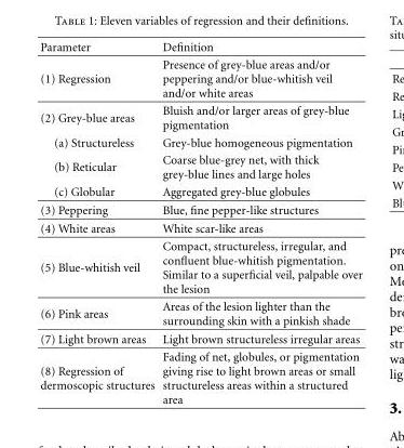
<table><thead><tr><td>Parameter</td><td>Definition</td></tr></thead><tbody><tr><td>(1) Regression</td><td>Presence of grey-blue areas and/or peppering and/or blue-whitish veil and/or white areas</td></tr><tr><td>(2) Grey-blue areas</td><td>Bluish and/or larger areas of grey-blue pigmentation</td></tr><tr><td>(a) Structureless</td><td>Grey-blue homogeneous pigmentation</td></tr><tr><td>(b) Reticular</td><td>Coarse blue-grey net, with thick grey-blue lines and large holes</td></tr><tr><td>(c) Globular</td><td>Aggregated grey-blue globules</td></tr><tr><td>(3) Peppering</td><td>Blue, fine pepper-like structures</td></tr><tr><td>(4) White areas</td><td>White scar-like areas</td></tr><tr><td>(5) Blue-whitish veil</td><td>Compact, structureless, irregular, and confluent blue-whitish pigmentation. Similar to a superficial veil, palpable over the lesion</td></tr><tr><td>(6) Pink areas</td><td>Areas of the lesion lighter than the surrounding skin with a pinkish shade</td></tr><tr><td>(7) Light brown areas</td><td>Light brown structureless irregular areas</td></tr><tr><td>(8) Regression of dermoscopic structures</td><td>Fading of net, globules, or pigmentation giving rise to light brown areas or small structureless areas within a structured area</td></tr></tbody></table>